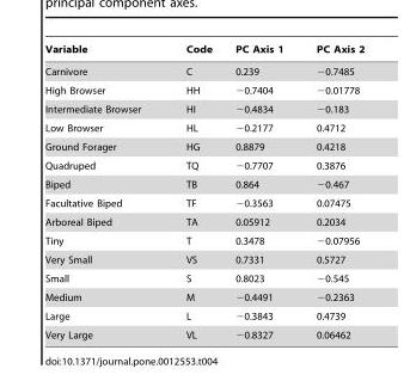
<table><thead><tr><td>Variable</td><td>Code</td><td>PC Axis 1</td><td>PC Axis 2</td></tr></thead><tbody><tr><td>Carnivore</td><td>C</td><td>0.239</td><td>−0.7485</td></tr><tr><td>High Browser</td><td>HH</td><td>−0.7404</td><td>−0.01778</td></tr><tr><td>Intermediate Browser</td><td>HI</td><td>−0.4834</td><td>−0.183</td></tr><tr><td>Low Browser</td><td>HL</td><td>−0.2177</td><td>0.4712</td></tr><tr><td>Ground Forager</td><td>HG</td><td>0.8879</td><td>0.4218</td></tr><tr><td>Quadruped</td><td>TQ</td><td>−0.7707</td><td>0.3876</td></tr><tr><td>Biped</td><td>TB</td><td>0.864</td><td>−0.467</td></tr><tr><td>Facultative Biped</td><td>TF</td><td>−0.3563</td><td>0.07475</td></tr><tr><td>Arboreal Biped</td><td>TA</td><td>0.05912</td><td>0.2034</td></tr><tr><td>Tiny</td><td>T</td><td>0.3478</td><td>−0.07956</td></tr><tr><td>Very Small</td><td>VS</td><td>0.7331</td><td>0.5727</td></tr><tr><td>Small</td><td>S</td><td>0.8023</td><td>−0.545</td></tr><tr><td>Medium</td><td>M</td><td>−0.4491</td><td>−0.2363</td></tr><tr><td>Large</td><td>L</td><td>−0.3843</td><td>0.4739</td></tr><tr><td>Very Large</td><td>VL</td><td>−0.8327</td><td>0.06462</td></tr></tbody></table>